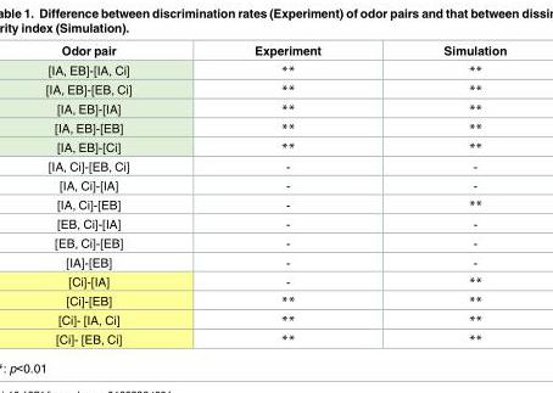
<table><thead><tr><td>Odor pair</td><td>Experiment</td><td>Simulation</td></tr></thead><tbody><tr><td>[IA, EB]-[IA, Ci]</td><td>**</td><td>**</td></tr><tr><td>[IA, EB]-[EB, Ci]</td><td>**</td><td>**</td></tr><tr><td>[IA, EB]-[IA]</td><td>**</td><td>**</td></tr><tr><td>[IA, EB]-[EB]</td><td>**</td><td>**</td></tr><tr><td>[IA, EB]-[Ci]</td><td>**</td><td>**</td></tr><tr><td>[IA, Ci]-[EB, Ci]</td><td>-</td><td>-</td></tr><tr><td>[IA, Ci]-[IA]</td><td>-</td><td>-</td></tr><tr><td>[IA, Ci]-[EB]</td><td>-</td><td>**</td></tr><tr><td>[EB, Ci]-[IA]</td><td>-</td><td>-</td></tr><tr><td>[EB, Ci]-[EB]</td><td>-</td><td>-</td></tr><tr><td>[IA]-[EB]</td><td>-</td><td>-</td></tr><tr><td>[Ci]-[IA]</td><td>-</td><td>**</td></tr><tr><td>[Ci]-[EB]</td><td>**</td><td>**</td></tr><tr><td>[Ci]- [IA, Ci]</td><td>**</td><td>**</td></tr><tr><td>[Ci]- [EB, Ci]</td><td>**</td><td>**</td></tr></tbody></table>